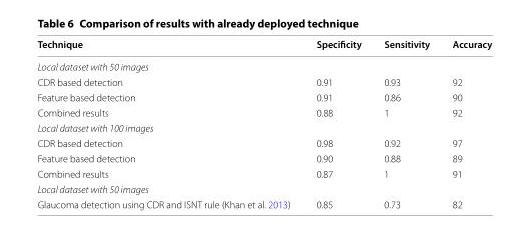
<table><thead><tr><td>Technique</td><td>Specificity</td><td>Sensitivity</td><td>Accuracy</td></tr></thead><tbody><tr><td colspan="4">Local dataset with 50 images</td></tr><tr><td>CDR based detection</td><td>0.91</td><td>0.93</td><td>92</td></tr><tr><td>Feature based detection</td><td>0.91</td><td>0.86</td><td>90</td></tr><tr><td>Combined results</td><td>0.88</td><td>1</td><td>92</td></tr><tr><td colspan="4">Local dataset with 100 images</td></tr><tr><td>CDR based detection</td><td>0.98</td><td>0.92</td><td>97</td></tr><tr><td>Feature based detection</td><td>0.90</td><td>0.88</td><td>89</td></tr><tr><td>Combined results</td><td>0.87</td><td>1</td><td>91</td></tr><tr><td colspan="4">Local dataset with 50 images</td></tr><tr><td>Glaucoma detection using CDR and ISNT rule (Khan et al. 2013)</td><td>0.85</td><td>0.73</td><td>82</td></tr></tbody></table>